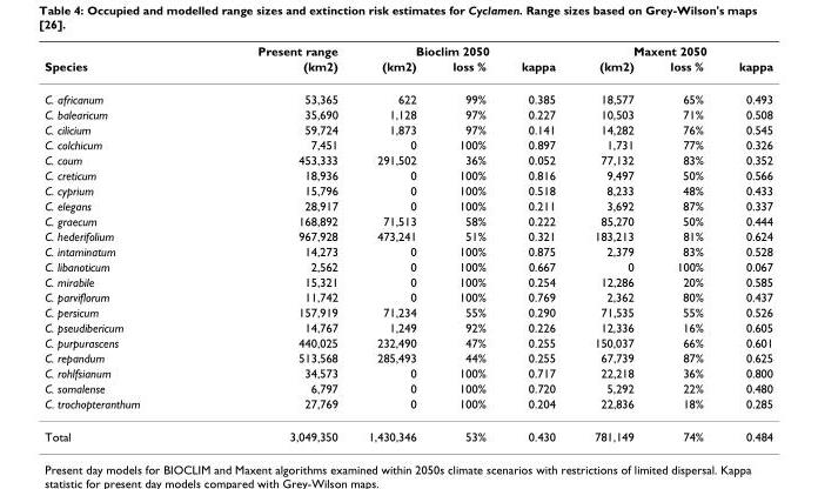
<table><thead><tr><td rowspan="2">Species</td><td rowspan="2">Present range (km2)</td><td colspan="3">Bioclim 2050</td><td colspan="3">Maxent 2050</td></tr><tr><td>(km2)</td><td>loss %</td><td>kappa</td><td>(km2)</td><td>loss %</td><td>kappa</td></tr></thead><tbody><tr><td>C. africanum</td><td>53,365</td><td>622</td><td>99%</td><td>0.385</td><td>18,577</td><td>65%</td><td>0.493</td></tr><tr><td>C. balearicum</td><td>35,690</td><td>1,128</td><td>97%</td><td>0.227</td><td>10,503</td><td>71%</td><td>0.508</td></tr><tr><td>C. cilicium</td><td>59,724</td><td>1,873</td><td>97%</td><td>0.141</td><td>14,282</td><td>76%</td><td>0.545</td></tr><tr><td>C. colchicum</td><td>7,451</td><td>0</td><td>100%</td><td>0.897</td><td>1,731</td><td>77%</td><td>0.326</td></tr><tr><td>C. coum</td><td>453,333</td><td>291,502</td><td>36%</td><td>0.052</td><td>77,132</td><td>83%</td><td>0.352</td></tr><tr><td>C. creticum</td><td>18,936</td><td>0</td><td>100%</td><td>0.816</td><td>9,497</td><td>50%</td><td>0.566</td></tr><tr><td>C. cyprium</td><td>15,796</td><td>0</td><td>100%</td><td>0.518</td><td>8,233</td><td>48%</td><td>0.433</td></tr><tr><td>C. elegans</td><td>28,917</td><td>0</td><td>100%</td><td>0.211</td><td>3,692</td><td>87%</td><td>0.337</td></tr><tr><td>C. graecum</td><td>168,892</td><td>71,513</td><td>58%</td><td>0.222</td><td>85,270</td><td>50%</td><td>0.444</td></tr><tr><td>C. hederifolium</td><td>967,928</td><td>473,241</td><td>51%</td><td>0.321</td><td>183,213</td><td>81%</td><td>0.624</td></tr><tr><td>C. intaminatum</td><td>14,273</td><td>0</td><td>100%</td><td>0.875</td><td>2,379</td><td>83%</td><td>0.528</td></tr><tr><td>C. libanoticum</td><td>2,562</td><td>0</td><td>100%</td><td>0.667</td><td>0</td><td>100%</td><td>0.067</td></tr><tr><td>C. mirabile</td><td>15,321</td><td>0</td><td>100%</td><td>0.254</td><td>12,286</td><td>20%</td><td>0.585</td></tr><tr><td>C. parviflorum</td><td>11,742</td><td>0</td><td>100%</td><td>0.769</td><td>2,362</td><td>80%</td><td>0.437</td></tr><tr><td>C. persicum</td><td>157,919</td><td>71,234</td><td>55%</td><td>0.290</td><td>71,535</td><td>55%</td><td>0.526</td></tr><tr><td>C. pseudibericum</td><td>14,767</td><td>1,249</td><td>92%</td><td>0.226</td><td>12,336</td><td>16%</td><td>0.605</td></tr><tr><td>C. purpurascens</td><td>440,025</td><td>232,490</td><td>47%</td><td>0.255</td><td>150,037</td><td>66%</td><td>0.601</td></tr><tr><td>C. repandum</td><td>513,568</td><td>285,493</td><td>44%</td><td>0.255</td><td>67,739</td><td>87%</td><td>0.625</td></tr><tr><td>C. rohlfsianum</td><td>34,573</td><td>0</td><td>100%</td><td>0.717</td><td>22,218</td><td>36%</td><td>0.800</td></tr><tr><td>C. somalense</td><td>6,797</td><td>0</td><td>100%</td><td>0.720</td><td>5,292</td><td>22%</td><td>0.480</td></tr><tr><td>C. trochopteranthum</td><td>27,769</td><td>0</td><td>100%</td><td>0.204</td><td>22,836</td><td>18%</td><td>0.285</td></tr><tr><td>Total</td><td>3,049,350</td><td>1,430,346</td><td>53%</td><td>0.430</td><td>781,149</td><td>74%</td><td>0.484</td></tr></tbody></table>